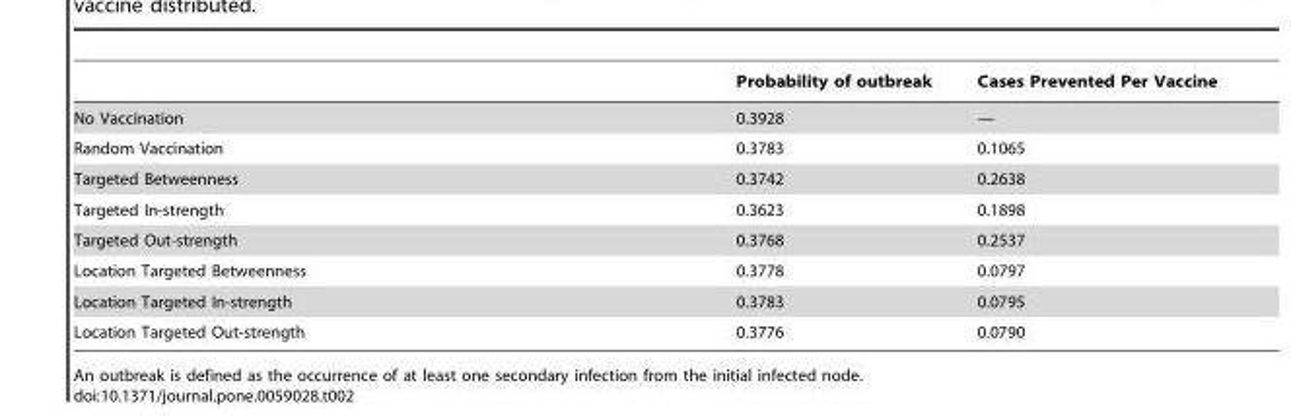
<table><thead><tr><td></td><td>Probability of outbreak</td><td>Cases Prevented Per Vaccine</td></tr></thead><tbody><tr><td>No Vaccination</td><td>0.3928</td><td>—</td></tr><tr><td>Random Vaccination</td><td>0.3783</td><td>0.1065</td></tr><tr><td>Targeted Betweenness</td><td>0.3742</td><td>0.2638</td></tr><tr><td>Targeted In-strength</td><td>0.3623</td><td>0.1898</td></tr><tr><td>Targeted Out-strength</td><td>0.3768</td><td>0.2537</td></tr><tr><td>Location Targeted Betweenness</td><td>0.3778</td><td>0.0797</td></tr><tr><td>Location Targeted In-strength</td><td>0.3783</td><td>0.0795</td></tr><tr><td>Location Targeted Out-strength</td><td>0.3776</td><td>0.0790</td></tr></tbody></table>